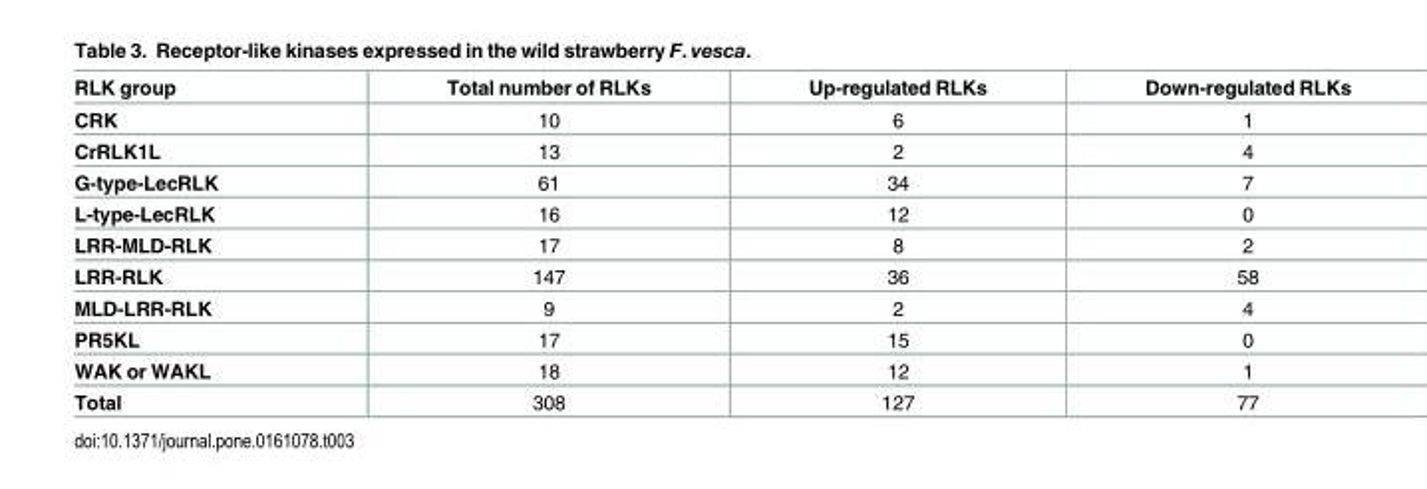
<table><thead><tr><td>RLK group</td><td>Total number of RLKs</td><td>Up-regulated RLKs</td><td>Down-regulated RLKs</td></tr></thead><tbody><tr><td>CRK</td><td>10</td><td>6</td><td>1</td></tr><tr><td>CrRLK1L</td><td>13</td><td>2</td><td>4</td></tr><tr><td>G-type-LecRLK</td><td>61</td><td>34</td><td>7</td></tr><tr><td>L-type-LecRLK</td><td>16</td><td>12</td><td>0</td></tr><tr><td>LRR-MLD-RLK</td><td>17</td><td>8</td><td>2</td></tr><tr><td>LRR-RLK</td><td>147</td><td>36</td><td>58</td></tr><tr><td>MLD-LRR-RLK</td><td>9</td><td>2</td><td>4</td></tr><tr><td>PR5KL</td><td>17</td><td>15</td><td>0</td></tr><tr><td>WAK or WAKL</td><td>18</td><td>12</td><td>1</td></tr><tr><td>Total</td><td>308</td><td>127</td><td>77</td></tr></tbody></table>